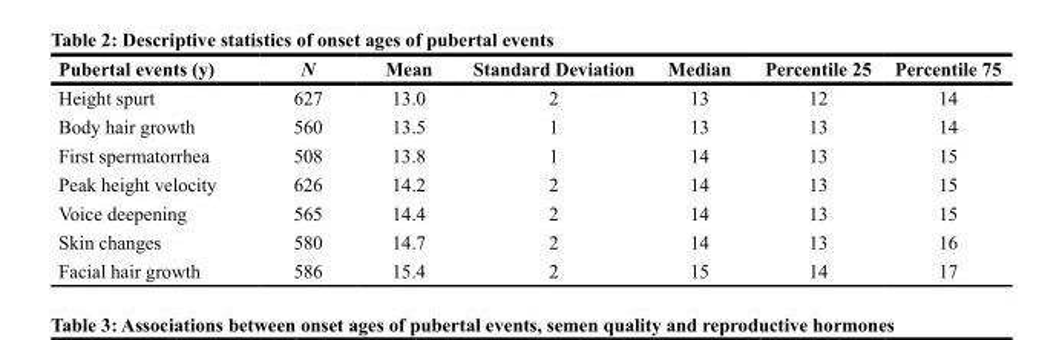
<table><thead><tr><td>Pubertal events (y)</td><td>N</td><td>Mean</td><td>Standard Deviation</td><td>Median</td><td>Percentile 25</td><td>Percentile 75</td></tr></thead><tbody><tr><td>Height spurt</td><td>627</td><td>13.0</td><td>2</td><td>13</td><td>12</td><td>14</td></tr><tr><td>Body hair growth</td><td>560</td><td>13.5</td><td>1</td><td>13</td><td>13</td><td>14</td></tr><tr><td>First spermatorrhea</td><td>508</td><td>13.8</td><td>1</td><td>14</td><td>13</td><td>15</td></tr><tr><td>Peak height velocity</td><td>626</td><td>14.2</td><td>2</td><td>14</td><td>13</td><td>15</td></tr><tr><td>Voice deepening</td><td>565</td><td>14.4</td><td>2</td><td>14</td><td>13</td><td>15</td></tr><tr><td>Skin changes</td><td>580</td><td>14.7</td><td>2</td><td>14</td><td>13</td><td>16</td></tr><tr><td>Facial hair growth</td><td>586</td><td>15.4</td><td>2</td><td>15</td><td>14</td><td>17</td></tr></tbody></table>